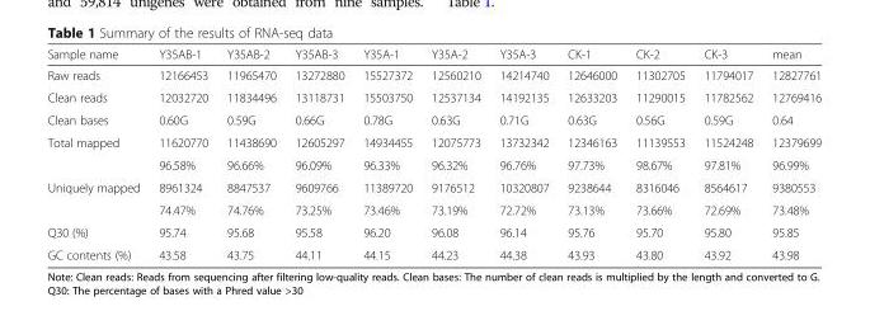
<table><thead><tr><td>Sample name</td><td>Y35AB-1</td><td>Y35AB-2</td><td>Y35AB-3</td><td>Y35A-1</td><td>Y35A-2</td><td>Y35A-3</td><td>CK-1</td><td>CK-2</td><td>CK-3</td><td>mean</td></tr></thead><tbody><tr><td>Raw reads</td><td>12166453</td><td>11965470</td><td>13272880</td><td>15527372</td><td>12560210</td><td>14214740</td><td>12646000</td><td>11302705</td><td>11794017</td><td>12827761</td></tr><tr><td>Clean reads</td><td>12032720</td><td>11834496</td><td>13118731</td><td>15503750</td><td>12537134</td><td>14192135</td><td>12633203</td><td>11290015</td><td>11782562</td><td>12769416</td></tr><tr><td>Clean bases</td><td>0.60G</td><td>0.59G</td><td>0.66G</td><td>0.78G</td><td>0.63G</td><td>0.71G</td><td>0.63G</td><td>0.56G</td><td>0.59G</td><td>0.64</td></tr><tr><td rowspan="2">Total mapped</td><td>11620770</td><td>11438690</td><td>12605297</td><td>14934455</td><td>12075773</td><td>13732342</td><td>12346163</td><td>11139553</td><td>11524248</td><td>12379699</td></tr><tr><td>96.58%</td><td>96.66%</td><td>96.09%</td><td>96.33%</td><td>96.32%</td><td>96.76%</td><td>97.73%</td><td>98.67%</td><td>97.81%</td><td>96.99%</td></tr><tr><td rowspan="2">Uniquely mapped</td><td>8961324</td><td>8847537</td><td>9609766</td><td>11389720</td><td>9176512</td><td>10320807</td><td>9238644</td><td>8316046</td><td>8564617</td><td>9380553</td></tr><tr><td>74.47%</td><td>74.76%</td><td>73.25%</td><td>73.46%</td><td>73.19%</td><td>72.72%</td><td>73.13%</td><td>73.66%</td><td>72.69%</td><td>73.48%</td></tr><tr><td>Q30 (%)</td><td>95.74</td><td>95.68</td><td>95.58</td><td>96.20</td><td>96.08</td><td>96.14</td><td>95.76</td><td>95.70</td><td>95.80</td><td>95.85</td></tr><tr><td>GC contents (%)</td><td>43.58</td><td>43.75</td><td>44.11</td><td>44.15</td><td>44.23</td><td>44.38</td><td>43.93</td><td>43.80</td><td>43.92</td><td>43.98</td></tr></tbody></table>